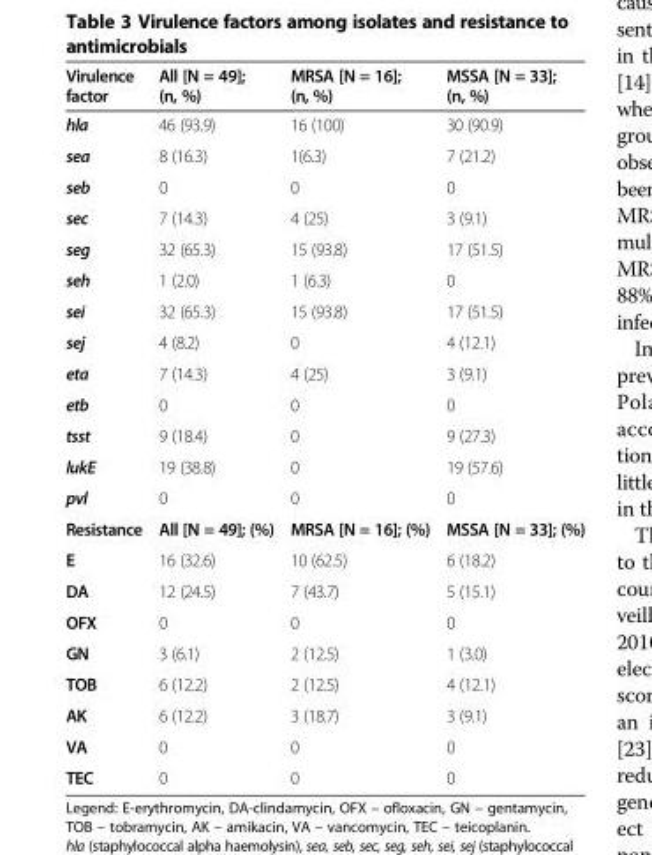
<table><thead><tr><td>Virulence factor</td><td>All [N = 49]; (n, %)</td><td>MRSA [N = 16]; (n, %)</td><td>MSSA [N = 33]; (n, %)</td></tr></thead><tbody><tr><td>hla</td><td>46 (93.9)</td><td>16 (100)</td><td>30 (90.9)</td></tr><tr><td>sea</td><td>8 (16.3)</td><td>1(6.3)</td><td>7 (21.2)</td></tr><tr><td>seb</td><td>0</td><td>0</td><td>0</td></tr><tr><td>sec</td><td>7 (14.3)</td><td>4 (25)</td><td>3 (9.1)</td></tr><tr><td>seg</td><td>32 (65.3)</td><td>15 (93.8)</td><td>17 (51.5)</td></tr><tr><td>seh</td><td>1 (2.0)</td><td>1 (6.3)</td><td>0</td></tr><tr><td>sei</td><td>32 (65.3)</td><td>15 (93.8)</td><td>17 (51.5)</td></tr><tr><td>sej</td><td>4 (8.2)</td><td>0</td><td>4 (12.1)</td></tr><tr><td>eta</td><td>7 (14.3)</td><td>4 (25)</td><td>3 (9.1)</td></tr><tr><td>etb</td><td>0</td><td>0</td><td>0</td></tr><tr><td>tsst</td><td>9 (18.4)</td><td>0</td><td>9 (27.3)</td></tr><tr><td>lukE</td><td>19 (38.8)</td><td>0</td><td>19 (57.6)</td></tr><tr><td>pvl</td><td>0</td><td>0</td><td>0</td></tr><tr><td>Resistance</td><td>All [N = 49]; (%)</td><td>MRSA [N = 16]; (%)</td><td>MSSA [N = 33]; (%)</td></tr><tr><td>E</td><td>16 (32.6)</td><td>10 (62.5)</td><td>6 (18.2)</td></tr><tr><td>DA</td><td>12 (24.5)</td><td>7 (43.7)</td><td>5 (15.1)</td></tr><tr><td>OFX</td><td>0</td><td>0</td><td>0</td></tr><tr><td>GN</td><td>3 (6.1)</td><td>2 (12.5)</td><td>1 (3.0)</td></tr><tr><td>TOB</td><td>6 (12.2)</td><td>2 (12.5)</td><td>4 (12.1)</td></tr><tr><td>AK</td><td>6 (12.2)</td><td>3 (18.7)</td><td>3 (9.1)</td></tr><tr><td>VA</td><td>0</td><td>0</td><td>0</td></tr><tr><td>TEC</td><td>0</td><td>0</td><td>0</td></tr></tbody></table>